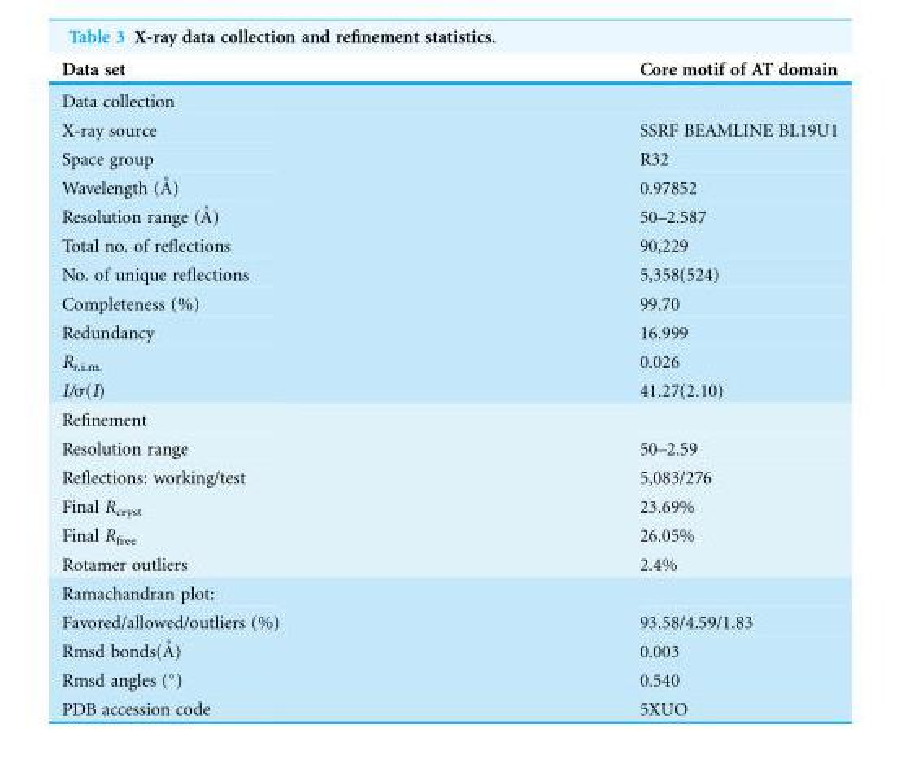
<table><thead><tr><td>Data set</td><td>Core motif of AT domain</td></tr></thead><tbody><tr><td colspan="2">Data collection</td></tr><tr><td>X-ray source</td><td>SSRF BEAMLINE BL19U1</td></tr><tr><td>Space group</td><td>R32</td></tr><tr><td>Wavelength (A˚ )</td><td>0.97852</td></tr><tr><td>Resolution range (A˚ )</td><td>50–2.587</td></tr><tr><td>Total no. of reflections</td><td>90,229</td></tr><tr><td>No. of unique reflections</td><td>5,358(524)</td></tr><tr><td>Completeness (%)</td><td>99.70</td></tr><tr><td>Redundancy</td><td>16.999</td></tr><tr><td>R<sub>r.i.m.</sub></td><td>0.026</td></tr><tr><td>I/σ(I)</td><td>41.27(2.10)</td></tr><tr><td colspan="2">Refinement</td></tr><tr><td>Resolution range</td><td>50–2.59</td></tr><tr><td>Reflections: working/test</td><td>5,083/276</td></tr><tr><td>Final R<sub>cryst</sub></td><td>23.69%</td></tr><tr><td>Final R<sub>free</sub></td><td>26.05%</td></tr><tr><td>Rotamer outliers</td><td>2.4%</td></tr><tr><td colspan="2">Ramachandran plot:</td></tr><tr><td>Favored/allowed/outliers (%)</td><td>93.58/4.59/1.83</td></tr><tr><td>Rmsd bonds(A˚ )</td><td>0.003</td></tr><tr><td>Rmsd angles (°)</td><td>0.540</td></tr><tr><td>PDB accession code</td><td>5XUO</td></tr></tbody></table>